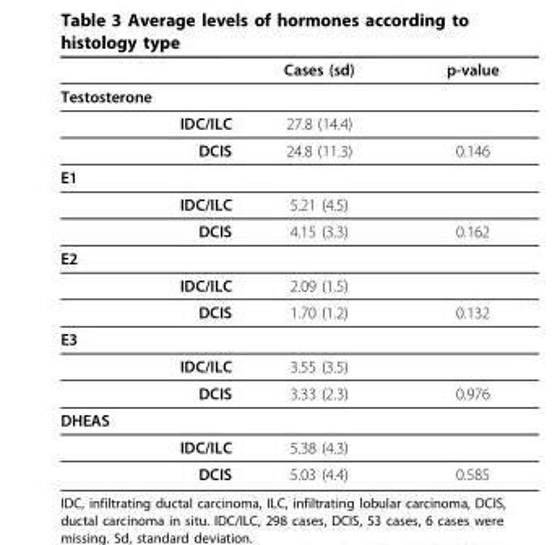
<table><thead><tr><td></td><td>Cases (sd)</td><td>p-value</td></tr></thead><tbody><tr><td colspan="3">Testosterone</td></tr><tr><td>IDC/ILC</td><td>27.8 (14.4)</td><td></td></tr><tr><td>DCIS</td><td>24.8 (11.3)</td><td>0.146</td></tr><tr><td colspan="3">E1</td></tr><tr><td>IDC/ILC</td><td>5.21 (4.5)</td><td></td></tr><tr><td>DCIS</td><td>4.15 (3.3)</td><td>0.162</td></tr><tr><td colspan="3">E2</td></tr><tr><td>IDC/ILC</td><td>2.09 (1.5)</td><td></td></tr><tr><td>DCIS</td><td>1.70 (1.2)</td><td>0.132</td></tr><tr><td colspan="3">E3</td></tr><tr><td>IDC/ILC</td><td>3.55 (3.5)</td><td></td></tr><tr><td>DCIS</td><td>3.33 (2.3)</td><td>0.976</td></tr><tr><td colspan="3">DHEAS</td></tr><tr><td>IDC/ILC</td><td>5.38 (4.3)</td><td></td></tr><tr><td>DCIS</td><td>5.03 (4.4)</td><td>0.585</td></tr></tbody></table>